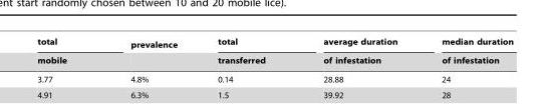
<table><thead><tr><td rowspan="2">total mobile</td><td rowspan="2">prevalence</td><td rowspan="2">total transferred</td><td rowspan="2">average duration of infestation</td><td rowspan="2">median duration of infestation</td></tr><tr></tr></thead><tbody></tbody></table>